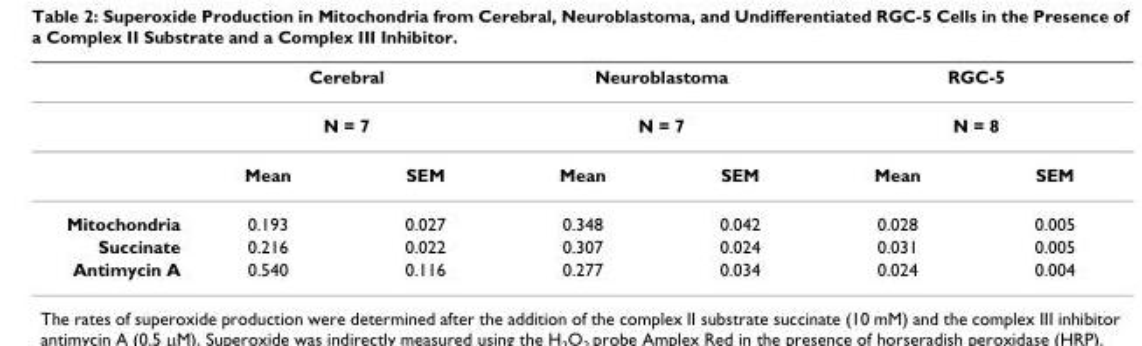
<table><thead><tr><td rowspan="3"></td><td rowspan="2" colspan="2">Cerebral N = 7</td><td rowspan="2" colspan="2">Neuroblastoma N = 7</td><td rowspan="2" colspan="2">RGC-5 N = 8</td></tr><tr></tr><tr><td>Mean</td><td>SEM</td><td>Mean</td><td>SEM</td><td>Mean</td><td>SEM</td></tr></thead><tbody><tr><td>Mitochondria</td><td>0.193</td><td>0.027</td><td>0.348</td><td>0.042</td><td>0.028</td><td>0.005</td></tr><tr><td>Succinate</td><td>0.216</td><td>0.022</td><td>0.307</td><td>0.024</td><td>0.031</td><td>0.005</td></tr><tr><td>Antimycin A</td><td>0.540</td><td>0.116</td><td>0.277</td><td>0.034</td><td>0.024</td><td>0.004</td></tr></tbody></table>